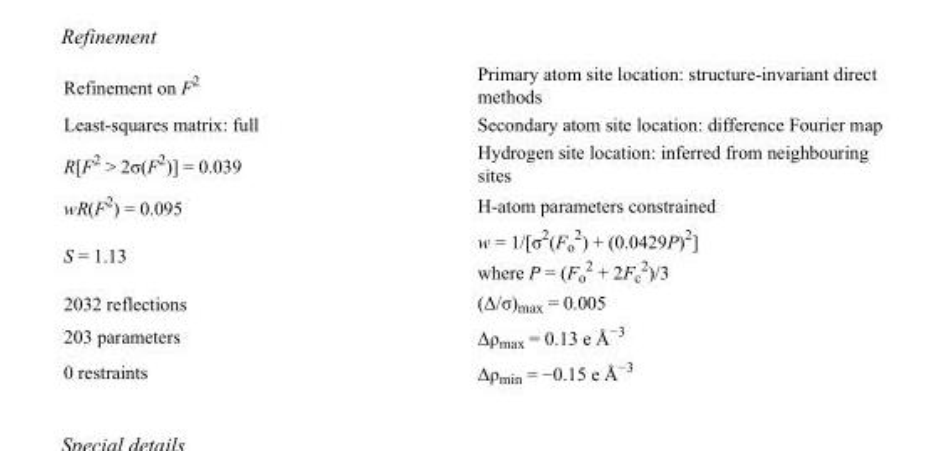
<table><tbody><tr><td>Refinement on F<sup>2</sup></td><td>Primary atom site location: structure-invariant direct methods</td></tr><tr><td>Least-squares matrix: full</td><td>Secondary atom site location: difference Fourier map</td></tr><tr><td>R[F<sup>2</sup> &gt; 2σ(F<sup>2</sup>)] = 0.039</td><td>Hydrogen site location: inferred from neighbouring sites</td></tr><tr><td>wR(F<sup>2</sup>) = 0.095</td><td>H-atom parameters constrained</td></tr><tr><td>S = 1.13</td><td>w = 1/[σ<sup>2</sup>(F<sub>o</sub> <sup>2</sup>) + (0.0429P)<sup>2</sup>] where P = (F<sub>o</sub> <sup>2</sup> + 2F<sub>c</sub> <sup>2</sup>)/3</td></tr><tr><td>2032 reflections</td><td>(Δ/σ)<sub>max</sub> = 0.005</td></tr><tr><td>203 parameters</td><td>Δρ<sub>max</sub> = 0.13 e Å<sup>−3</sup></td></tr><tr><td>0 restraints</td><td>Δρ<sub>min</sub> = −0.15 e Å<sup>−3</sup></td></tr></tbody></table>